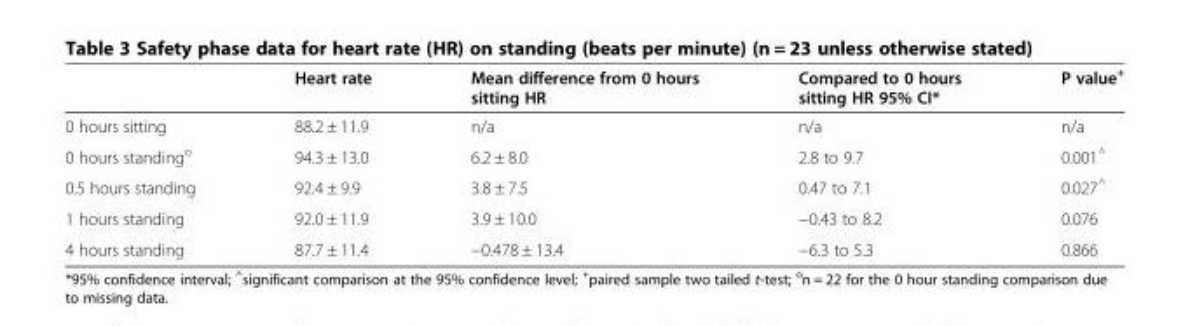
<table><thead><tr><td></td><td>Heart rate</td><td>Mean difference from 0 hours sitting HR</td><td>Compared to 0 hours sitting HR 95% CI*</td><td>P value<sup>+</sup></td></tr></thead><tbody><tr><td>0 hours sitting</td><td>88.2 ± 11.9</td><td>n/a</td><td>n/a</td><td>n/a</td></tr><tr><td>0 hours standing<sup>o</sup></td><td>94.3 ± 13.0</td><td>6.2 ± 8.0</td><td>2.8 to 9.7</td><td>0.001<sup>^</sup></td></tr><tr><td>0.5 hours standing</td><td>92.4 ± 9.9</td><td>3.8 ± 7.5</td><td>0.47 to 7.1</td><td>0.027<sup>^</sup></td></tr><tr><td>1 hours standing</td><td>92.0 ± 11.9</td><td>3.9 ± 10.0</td><td>−0.43 to 8.2</td><td>0.076</td></tr><tr><td>4 hours standing</td><td>87.7 ± 11.4</td><td>−0.478 ± 13.4</td><td>−6.3 to 5.3</td><td>0.866</td></tr></tbody></table>